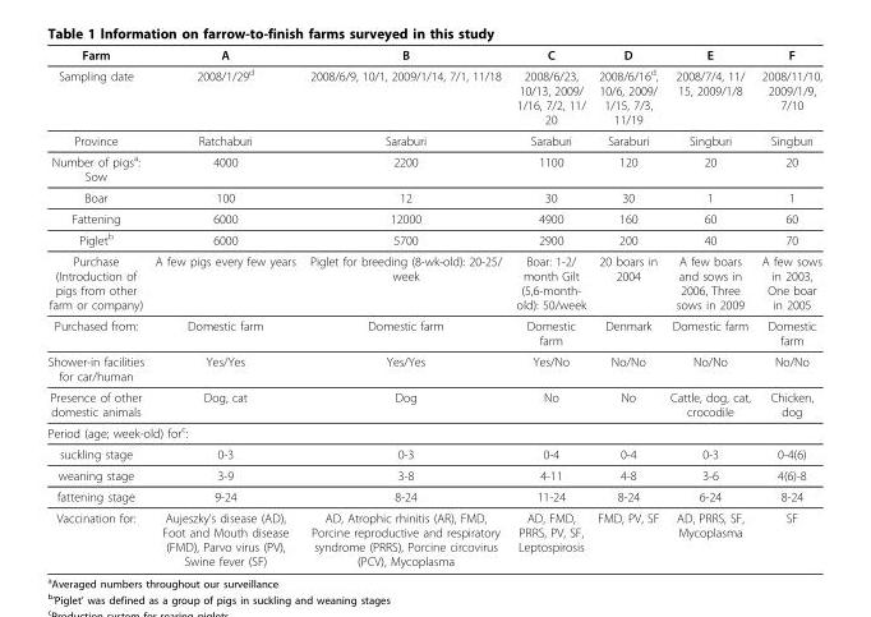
<table><thead><tr><td>Farm</td><td>A</td><td>B</td><td>C</td><td>D</td><td>E</td><td>F</td></tr></thead><tbody><tr><td>Sampling date</td><td>2008/1/29<sup>d</sup></td><td>2008/6/9, 10/1, 2009/1/14, 7/1, 11/18</td><td>2008/6/23, 10/13, 2009/ 1/16, 7/2, 11/ 20</td><td>2008/6/16<sup>d</sup>, 10/6, 2009/ 1/15, 7/3, 11/19</td><td>2008/7/4, 11/ 15, 2009/1/8</td><td>2008/11/10, 2009/1/9, 7/10</td></tr><tr><td>Province</td><td>Ratchaburi</td><td>Saraburi</td><td>Saraburi</td><td>Saraburi</td><td>Singburi</td><td>Singburi</td></tr><tr><td>Number of pigs<sup>a</sup>: Sow</td><td>4000</td><td>2200</td><td>1100</td><td>120</td><td>20</td><td>20</td></tr><tr><td>Boar</td><td>100</td><td>12</td><td>30</td><td>30</td><td>1</td><td>1</td></tr><tr><td>Fattening</td><td>6000</td><td>12000</td><td>4900</td><td>160</td><td>60</td><td>60</td></tr><tr><td>Piglet<sup>b</sup></td><td>6000</td><td>5700</td><td>2900</td><td>200</td><td>40</td><td>70</td></tr><tr><td>Purchase (Introduction of pigs from other farm or company)</td><td>A few pigs every few years</td><td>Piglet for breeding (8-wk-old): 20-25/ week</td><td>Boar: 1-2/ month Gilt (5,6-month- old): 50/week</td><td>20 boars in 2004</td><td>A few boars and sows in 2006, Three sows in 2009</td><td>A few sows in 2003, One boar in 2005</td></tr><tr><td>Purchased from:</td><td>Domestic farm</td><td>Domestic farm</td><td>Domestic farm</td><td>Denmark</td><td>Domestic farm</td><td>Domestic farm</td></tr><tr><td>Shower-in facilities for car/human</td><td>Yes/Yes</td><td>Yes/Yes</td><td>Yes/No</td><td>No/No</td><td>No/No</td><td>No/No</td></tr><tr><td>Presence of other domestic animals</td><td>Dog, cat</td><td>Dog</td><td>No</td><td>No</td><td>Cattle, dog, cat, crocodile</td><td>Chicken, dog</td></tr><tr><td colspan="7">Period (age; week-old) for<sup>c</sup>:</td></tr><tr><td>suckling stage</td><td>0-3</td><td>0-3</td><td>0-4</td><td>0-4</td><td>0-3</td><td>0-4(6)</td></tr><tr><td>weaning stage</td><td>3-9</td><td>3-8</td><td>4-11</td><td>4-8</td><td>3-6</td><td>4(6)-8</td></tr><tr><td>fattening stage</td><td>9-24</td><td>8-24</td><td>11-24</td><td>8-24</td><td>6-24</td><td>8-24</td></tr><tr><td>Vaccination for:</td><td>Aujeszky’s disease (AD), Foot and Mouth disease (FMD), Parvo virus (PV), Swine fever (SF)</td><td>AD, Atrophic rhinitis (AR), FMD, Porcine reproductive and respiratory syndrome (PRRS), Porcine circovirus (PCV), Mycoplasma</td><td>AD, FMD, PRRS, PV, SF, Leptospirosis</td><td>FMD, PV, SF</td><td>AD, PRRS, SF, Mycoplasma</td><td>SF</td></tr></tbody></table>